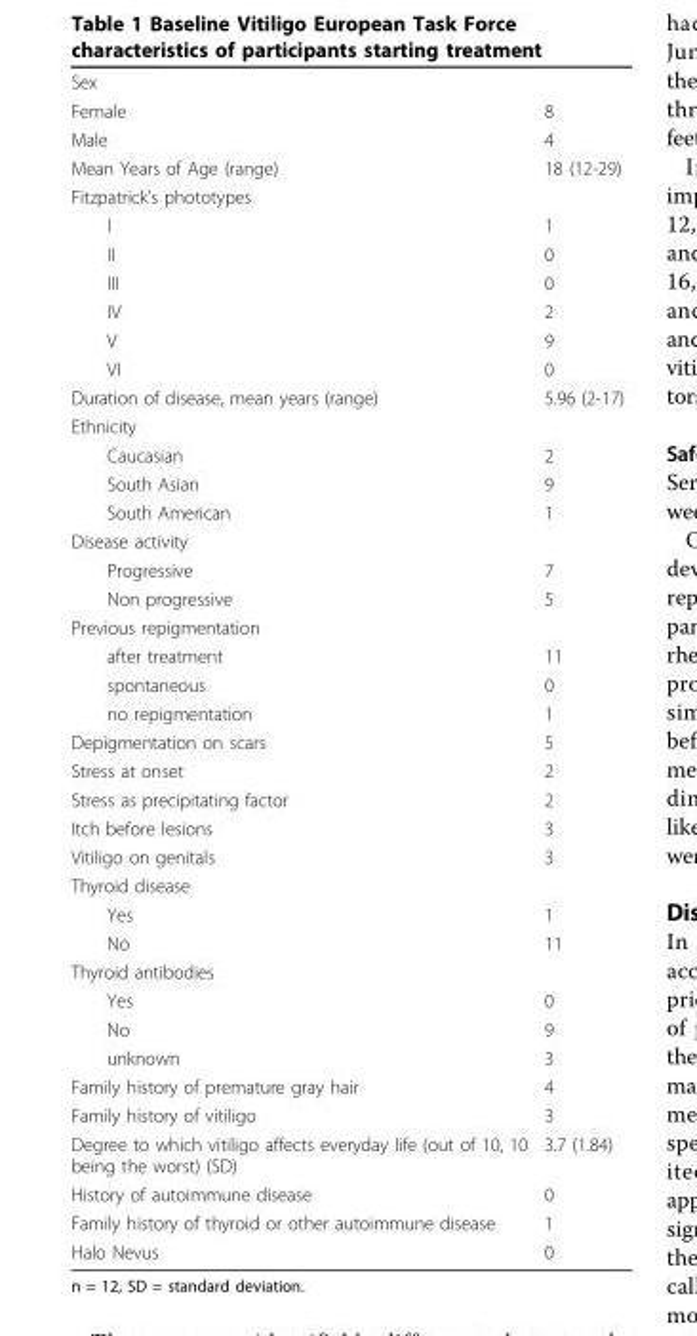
<table><tbody><tr><td colspan="2">Sex</td></tr><tr><td>Female</td><td>8</td></tr><tr><td>Male</td><td>4</td></tr><tr><td>Mean Years of Age (range)</td><td>18 (12-29)</td></tr><tr><td colspan="2">Fitzpatrick’s phototypes</td></tr><tr><td>I</td><td>1</td></tr><tr><td>II</td><td>0</td></tr><tr><td>III</td><td>0</td></tr><tr><td>IV</td><td>2</td></tr><tr><td>V</td><td>9</td></tr><tr><td>VI</td><td>0</td></tr><tr><td>Duration of disease, mean years (range)</td><td>5.96 (2-17)</td></tr><tr><td colspan="2">Ethnicity</td></tr><tr><td>Caucasian</td><td>2</td></tr><tr><td>South Asian</td><td>9</td></tr><tr><td>South American</td><td>1</td></tr><tr><td colspan="2">Disease activity</td></tr><tr><td>Progressive</td><td>7</td></tr><tr><td>Non progressive</td><td>5</td></tr><tr><td colspan="2">Previous repigmentation</td></tr><tr><td>after treatment</td><td>11</td></tr><tr><td>spontaneous</td><td>0</td></tr><tr><td>no repigmentation</td><td>1</td></tr><tr><td>Depigmentation on scars</td><td>5</td></tr><tr><td>Stress at onset</td><td>2</td></tr><tr><td>Stress as precipitating factor</td><td>2</td></tr><tr><td>Itch before lesions</td><td>3</td></tr><tr><td>Vitiligo on genitals</td><td>3</td></tr><tr><td colspan="2">Thyroid disease</td></tr><tr><td>Yes</td><td>1</td></tr><tr><td>No</td><td>11</td></tr><tr><td colspan="2">Thyroid antibodies</td></tr><tr><td>Yes</td><td>0</td></tr><tr><td>No</td><td>9</td></tr><tr><td>unknown</td><td>3</td></tr><tr><td>Family history of premature gray hair</td><td>4</td></tr><tr><td>Family history of vitiligo</td><td>3</td></tr><tr><td>Degree to which vitiligo affects everyday life (out of 10, 10 being the worst) (SD)</td><td>3.7 (1.84)</td></tr><tr><td>History of autoimmune disease</td><td>0</td></tr><tr><td>Family history of thyroid or other autoimmune disease</td><td>1</td></tr><tr><td>Halo Nevus</td><td>0</td></tr></tbody></table>